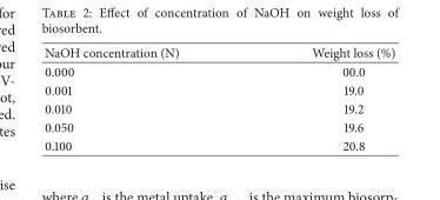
<table><thead><tr><td>NaOH concentration (N)</td><td>Weight loss (%)</td></tr></thead><tbody><tr><td>0.000</td><td>00.0</td></tr><tr><td>0.001</td><td>19.0</td></tr><tr><td>0.010</td><td>19.2</td></tr><tr><td>0.050</td><td>19.6</td></tr><tr><td>0.100</td><td>20.8</td></tr></tbody></table>